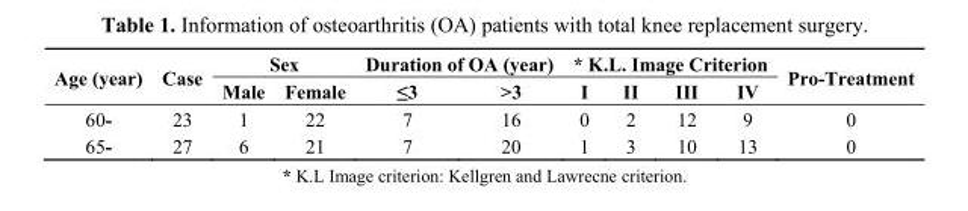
<table><thead><tr><td rowspan="2">Age (year)</td><td rowspan="2">Case</td><td colspan="2">Sex</td><td colspan="2">Duration of OA (year)</td><td colspan="4">* K.L. Image Criterion</td><td rowspan="2">Pro-Treatment</td></tr><tr><td>Male</td><td>Female</td><td>≤3</td><td>&gt;3</td><td>I</td><td>II</td><td>III</td><td>IV</td></tr></thead><tbody><tr><td>60-</td><td>23</td><td>1</td><td>22</td><td>7</td><td>16</td><td>0</td><td>2</td><td>12</td><td>9</td><td>0</td></tr><tr><td>65-</td><td>27</td><td>6</td><td>21</td><td>7</td><td>20</td><td>1</td><td>3</td><td>10</td><td>13</td><td>0</td></tr></tbody></table>